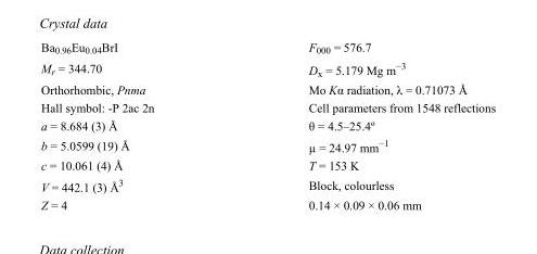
<table><tbody><tr><td>Ba<sub>0.96</sub>Eu<sub>0.04</sub>BrI</td><td>F000 = 576.7</td></tr><tr><td>M<sub>r</sub> = 344.70</td><td>D<sub>x</sub> = 5.179 Mg m<sup>−3</sup></td></tr><tr><td>Orthorhombic, Pnma</td><td>Mo Kα radiation, λ = 0.71073 Å</td></tr><tr><td>Hall symbol: -P 2ac 2n</td><td>Cell parameters from 1548 reflections</td></tr><tr><td>a = 8.684 (3) Å</td><td>θ = 4.5–25.4º</td></tr><tr><td>b = 5.0599 (19) Å</td><td>µ = 24.97 mm<sup>−1</sup></td></tr><tr><td>c = 10.061 (4) Å</td><td>T = 153 K</td></tr><tr><td>V = 442.1 (3) Å<sup>3</sup></td><td>Block, colourless</td></tr><tr><td>Z = 4</td><td>0.14 × 0.09 × 0.06 mm</td></tr></tbody></table>